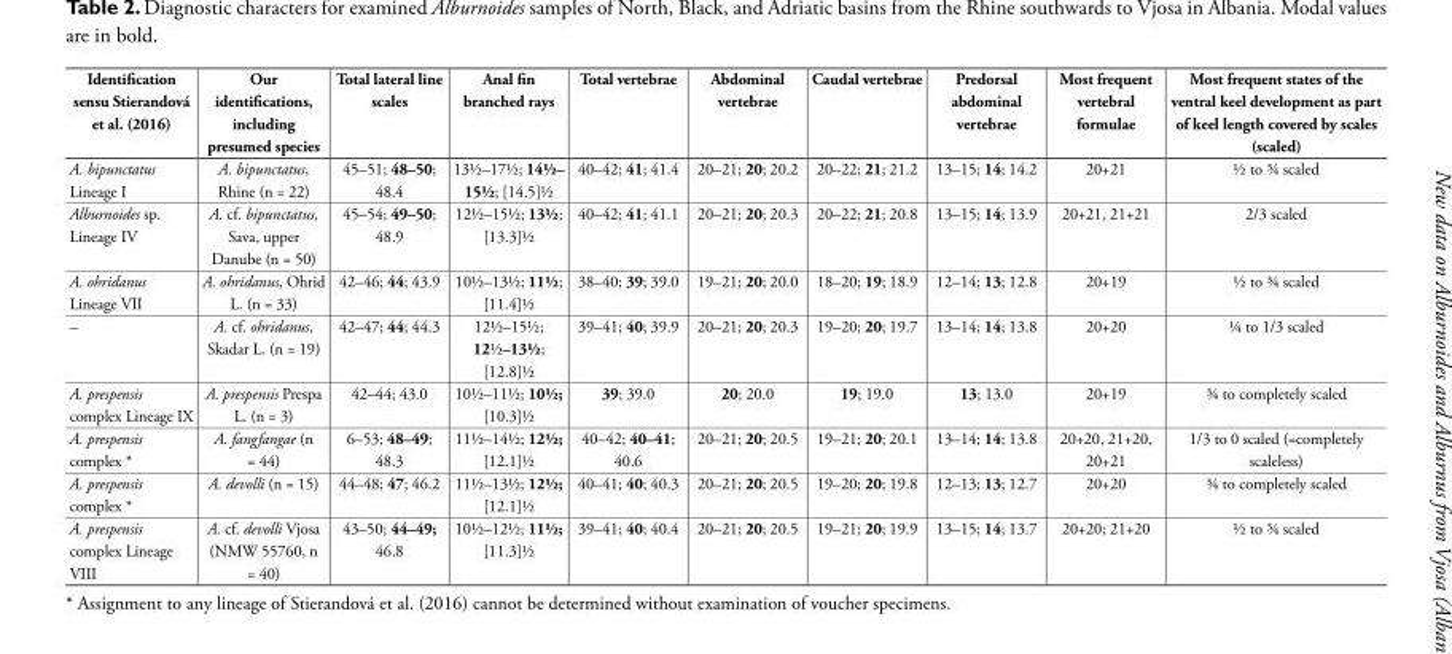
<table><thead><tr><td>Identification sensu Stierandová et al. (2016)</td><td>Our identifications, including presumed species</td><td>Total lateral line scales</td><td>Anal fin branched rays</td><td>Total vertebrae</td><td>Abdominal vertebrae</td><td>Caudal vertebrae</td><td>Predorsal abdominal vertebrae</td><td>Most frequent vertebral formulae</td><td>Most frequent states of the ventral keel development as part of keel length covered by scales (scaled)</td></tr></thead><tbody><tr><td>A. bipunctatus Lineage I</td><td>A. bipunctatus, Rhine (n = 22)</td><td>45–51; 48–50; 48.4</td><td>13½–17½; 14½– 15½; [14.5]½</td><td>40–42; 41; 41.4</td><td>20–21; 20; 20.2</td><td>20–22; 21; 21.2</td><td>13–15; 14; 14.2</td><td>20+21</td><td>½ to ¾ scaled</td></tr><tr><td>Alburnoides sp. Lineage IV</td><td>A. cf. bipunctatus, Sava, upper Danube (n = 50)</td><td>45–54; 49–50; 48.9</td><td>12½–15½; 13½; [13.3]½</td><td>40–42; 41; 41.1</td><td>20–21; 20; 20.3</td><td>20–22; 21; 20.8</td><td>13–15; 14; 13.9</td><td>20+21, 21+21</td><td>2/3 scaled</td></tr><tr><td>A. ohridanus Lineage VII</td><td>A. ohridanus, Ohrid L. (n = 33)</td><td>42–46; 44; 43.9</td><td>10½–13½; 11½; [11.4]½</td><td>38–40; 39; 39.0</td><td>19–21; 20; 20.0</td><td>18–20; 19; 18.9</td><td>12–14; 13; 12.8</td><td>20+19</td><td>½ to ¾ scaled</td></tr><tr><td>–</td><td>A. cf. ohridanus, Skadar L. (n = 19)</td><td>42–47; 44; 44.3</td><td>12½–15½; 12½–13½; [12.8]½</td><td>39–41; 40; 39.9</td><td>20–21; 20; 20.3</td><td>19–20; 20; 19.7</td><td>13–14; 14; 13.8</td><td>20+20</td><td>¼ to 1/3 scaled</td></tr><tr><td>A. prespensis complex Lineage IX</td><td>A. prespensis Prespa L. (n = 3)</td><td>42–44; 43.0</td><td>10½–11½; 10½; [10.3]½</td><td>39; 39.0</td><td>20; 20.0</td><td>19; 19.0</td><td>13; 13.0</td><td>20+19</td><td>¾ to completely scaled</td></tr><tr><td>A. prespensis complex *</td><td>A. fangfangae (n = 44)</td><td>6–53; 48–49; 48.3</td><td>11½–14½; 12½; [12.1]½</td><td>40–42; 40–41; 40.6</td><td>20–21; 20; 20.5</td><td>19–21; 20; 20.1</td><td>13–14; 14; 13.8</td><td>20+20, 21+20, 20+21</td><td>1/3 to 0 scaled (=completely scaleless)</td></tr><tr><td>A. prespensis complex *</td><td>A. devolli (n = 15)</td><td>44–48; 47; 46.2</td><td>11½–13½; 12½; [12.1]½</td><td>40–41; 40; 40.3</td><td>20–21; 20; 20.5</td><td>19–20; 20; 19.8</td><td>12–13; 13; 12.7</td><td>20+20</td><td>¾ to completely scaled</td></tr><tr><td>A. prespensis complex Lineage VIII</td><td>A. cf. devolli Vjosa (NMW 55760, n = 40)</td><td>43–50; 44–49; 46.8</td><td>10½–12½; 11½; [11.3]½</td><td>39–41; 40; 40.4</td><td>20–21; 20; 20.5</td><td>19–21; 20; 19.9</td><td>13–15; 14; 13.7</td><td>20+20; 21+20</td><td>½ to ¾ scaled</td></tr></tbody></table>